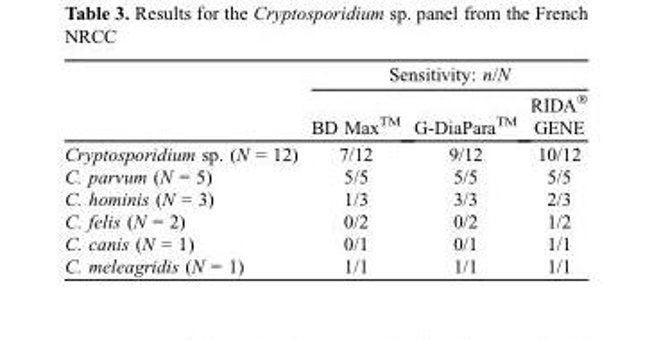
<table><thead><tr><td rowspan="2"></td><td colspan="3">Sensitivity: n/N</td></tr><tr><td>BD Max<sup>TM</sup></td><td>G-DiaPara<sup>TM</sup></td><td>RIDA<sup>®</sup> GENE</td></tr></thead><tbody><tr><td>Cryptosporidium sp. (N = 12)</td><td>7/12</td><td>9/12</td><td>10/12</td></tr><tr><td>C. parvum (N = 5)</td><td>5/5</td><td>5/5</td><td>5/5</td></tr><tr><td>C. hominis (N = 3)</td><td>1/3</td><td>3/3</td><td>2/3</td></tr><tr><td>C. felis (N = 2)</td><td>0/2</td><td>0/2</td><td>1/2</td></tr><tr><td>C. canis (N = 1)</td><td>0/1</td><td>0/1</td><td>1/1</td></tr><tr><td>C. meleagridis (N = 1)</td><td>1/1</td><td>1/1</td><td>1/1</td></tr></tbody></table>